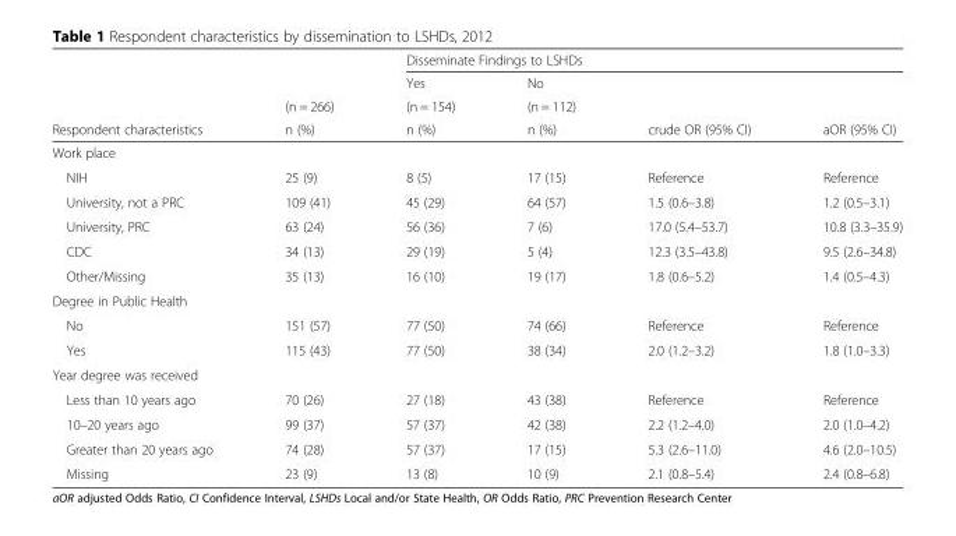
<table><thead><tr><td rowspan="4">Respondent characteristics</td><td rowspan="4">(n = 266) n (%)</td><td colspan="4">Disseminate Findings to LSHDs</td></tr><tr><td rowspan="3">Yes (n = 154) n (%)</td><td rowspan="3">No (n = 112) n (%)</td><td rowspan="3">crude OR (95% CI)</td><td rowspan="3">aOR (95% CI)</td></tr><tr></tr><tr></tr></thead><tbody><tr><td colspan="6">Work place</td></tr><tr><td>NIH</td><td>25 (9)</td><td>8 (5)</td><td>17 (15)</td><td>Reference</td><td>Reference</td></tr><tr><td>University, not a PRC</td><td>109 (41)</td><td>45 (29)</td><td>64 (57)</td><td>1.5 (0.6–3.8)</td><td>1.2 (0.5–3.1)</td></tr><tr><td>University, PRC</td><td>63 (24)</td><td>56 (36)</td><td>7 (6)</td><td>17.0 (5.4–53.7)</td><td>10.8 (3.3–35.9)</td></tr><tr><td>CDC</td><td>34 (13)</td><td>29 (19)</td><td>5 (4)</td><td>12.3 (3.5–43.8)</td><td>9.5 (2.6–34.8)</td></tr><tr><td>Other/Missing</td><td>35 (13)</td><td>16 (10)</td><td>19 (17)</td><td>1.8 (0.6–5.2)</td><td>1.4 (0.5–4.3)</td></tr><tr><td colspan="6">Degree in Public Health</td></tr><tr><td>No</td><td>151 (57)</td><td>77 (50)</td><td>74 (66)</td><td>Reference</td><td>Reference</td></tr><tr><td>Yes</td><td>115 (43)</td><td>77 (50)</td><td>38 (34)</td><td>2.0 (1.2–3.2)</td><td>1.8 (1.0–3.3)</td></tr><tr><td colspan="6">Year degree was received</td></tr><tr><td>Less than 10 years ago</td><td>70 (26)</td><td>27 (18)</td><td>43 (38)</td><td>Reference</td><td>Reference</td></tr><tr><td>10–20 years ago</td><td>99 (37)</td><td>57 (37)</td><td>42 (38)</td><td>2.2 (1.2–4.0)</td><td>2.0 (1.0–4.2)</td></tr><tr><td>Greater than 20 years ago</td><td>74 (28)</td><td>57 (37)</td><td>17 (15)</td><td>5.3 (2.6–11.0)</td><td>4.6 (2.0–10.5)</td></tr><tr><td>Missing</td><td>23 (9)</td><td>13 (8)</td><td>10 (9)</td><td>2.1 (0.8–5.4)</td><td>2.4 (0.8–6.8)</td></tr></tbody></table>